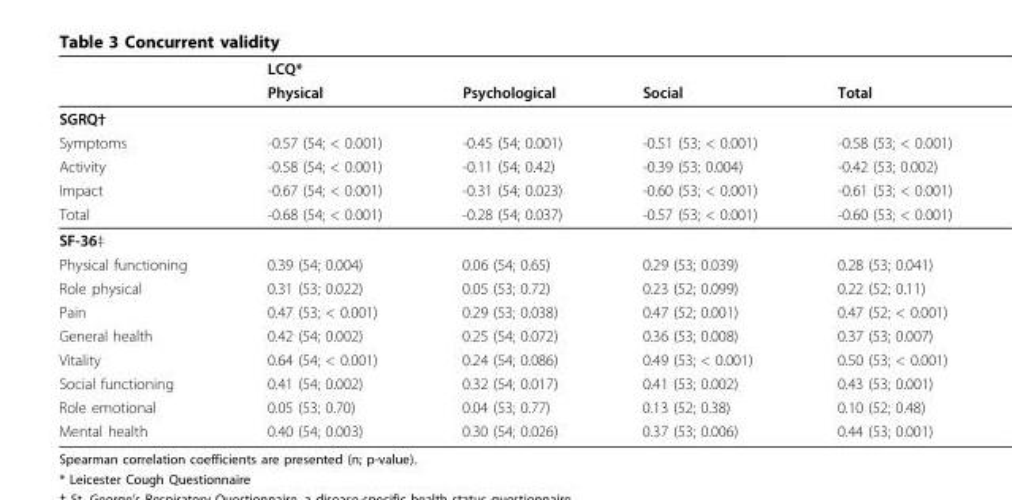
<table><thead><tr><td rowspan="2"></td><td rowspan="2">LCQ* Physical</td><td rowspan="2">Psychological</td><td rowspan="2">Social</td><td rowspan="2">Total</td></tr><tr></tr></thead><tbody><tr><td colspan="5">SGRQ†</td></tr><tr><td>Symptoms</td><td>-0.57 (54; &lt; 0.001)</td><td>-0.45 (54; 0.001)</td><td>-0.51 (53; &lt; 0.001)</td><td>-0.58 (53; &lt; 0.001)</td></tr><tr><td>Activity</td><td>-0.58 (54; &lt; 0.001)</td><td>-0.11 (54; 0.42)</td><td>-0.39 (53; 0.004)</td><td>-0.42 (53; 0.002)</td></tr><tr><td>Impact</td><td>-0.67 (54; &lt; 0.001)</td><td>-0.31 (54; 0.023)</td><td>-0.60 (53; &lt; 0.001)</td><td>-0.61 (53; &lt; 0.001)</td></tr><tr><td>Total</td><td>-0.68 (54; &lt; 0.001)</td><td>-0.28 (54; 0.037)</td><td>-0.57 (53; &lt; 0.001)</td><td>-0.60 (53; &lt; 0.001)</td></tr><tr><td colspan="5">SF-36‡</td></tr><tr><td>Physical functioning</td><td>0.39 (54; 0.004)</td><td>0.06 (54; 0.65)</td><td>0.29 (53; 0.039)</td><td>0.28 (53; 0.041)</td></tr><tr><td>Role physical</td><td>0.31 (53; 0.022)</td><td>0.05 (53; 0.72)</td><td>0.23 (52; 0.099)</td><td>0.22 (52; 0.11)</td></tr><tr><td>Pain</td><td>0.47 (53; &lt; 0.001)</td><td>0.29 (53; 0.038)</td><td>0.47 (52; 0.001)</td><td>0.47 (52; &lt; 0.001)</td></tr><tr><td>General health</td><td>0.42 (54; 0.002)</td><td>0.25 (54; 0.072)</td><td>0.36 (53; 0.008)</td><td>0.37 (53; 0.007)</td></tr><tr><td>Vitality</td><td>0.64 (54; &lt; 0.001)</td><td>0.24 (54; 0.086)</td><td>0.49 (53; &lt; 0.001)</td><td>0.50 (53; &lt; 0.001)</td></tr><tr><td>Social functioning</td><td>0.41 (54; 0.002)</td><td>0.32 (54; 0.017)</td><td>0.41 (53; 0.002)</td><td>0.43 (53; 0.001)</td></tr><tr><td>Role emotional</td><td>0.05 (53; 0.70)</td><td>0.04 (53; 0.77)</td><td>0.13 (52; 0.38)</td><td>0.10 (52; 0.48)</td></tr><tr><td>Mental health</td><td>0.40 (54; 0.003)</td><td>0.30 (54; 0.026)</td><td>0.37 (53; 0.006)</td><td>0.44 (53; 0.001)</td></tr></tbody></table>